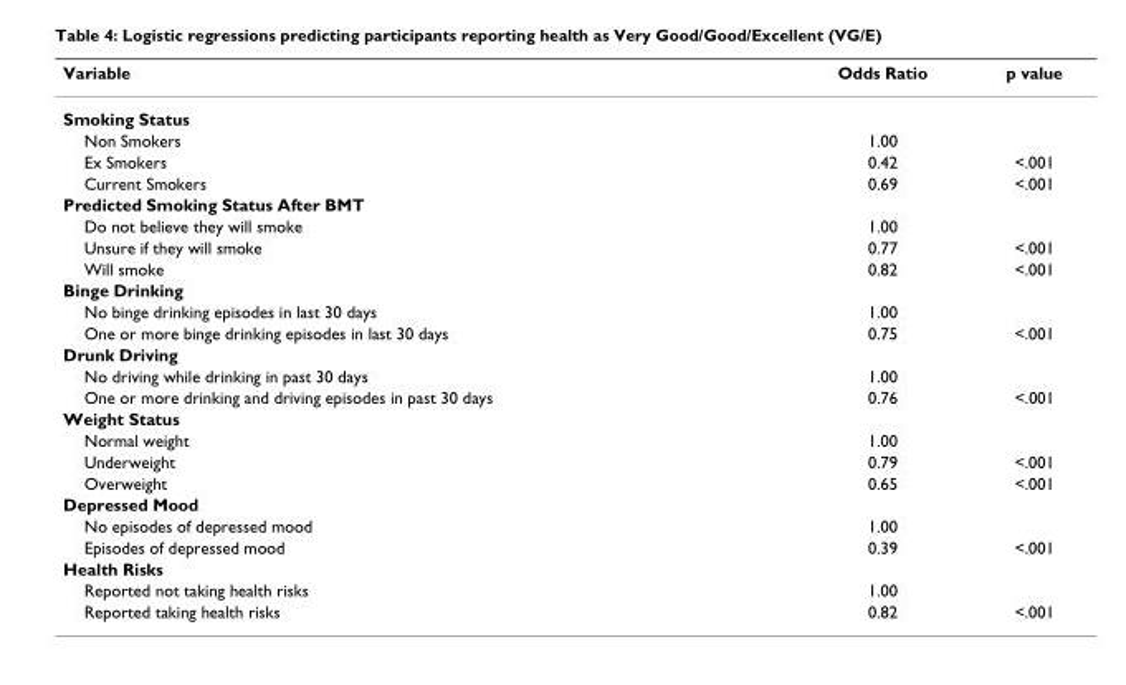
<table><thead><tr><td>Variable</td><td>Odds Ratio</td><td>p value</td></tr></thead><tbody><tr><td colspan="3">Smoking Status</td></tr><tr><td>Non Smokers</td><td>1.00</td><td></td></tr><tr><td>Ex Smokers</td><td>0.42</td><td>&lt;.001</td></tr><tr><td>Current Smokers</td><td>0.69</td><td>&lt;.001</td></tr><tr><td colspan="3">Predicted Smoking Status After BMT</td></tr><tr><td>Do not believe they will smoke</td><td>1.00</td><td></td></tr><tr><td>Unsure if they will smoke</td><td>0.77</td><td>&lt;.001</td></tr><tr><td>Will smoke</td><td>0.82</td><td>&lt;.001</td></tr><tr><td colspan="3">Binge Drinking</td></tr><tr><td>No binge drinking episodes in last 30 days</td><td>1.00</td><td></td></tr><tr><td>One or more binge drinking episodes in last 30 days</td><td>0.75</td><td>&lt;.001</td></tr><tr><td colspan="3">Drunk Driving</td></tr><tr><td>No driving while drinking in past 30 days</td><td>1.00</td><td></td></tr><tr><td>One or more drinking and driving episodes in past 30 days</td><td>0.76</td><td>&lt;.001</td></tr><tr><td colspan="3">Weight Status</td></tr><tr><td>Normal weight</td><td>1.00</td><td></td></tr><tr><td>Underweight</td><td>0.79</td><td>&lt;.001</td></tr><tr><td>Overweight</td><td>0.65</td><td>&lt;.001</td></tr><tr><td colspan="3">Depressed Mood</td></tr><tr><td>No episodes of depressed mood</td><td>1.00</td><td></td></tr><tr><td>Episodes of depressed mood</td><td>0.39</td><td>&lt;.001</td></tr><tr><td colspan="3">Health Risks</td></tr><tr><td>Reported not taking health risks</td><td>1.00</td><td></td></tr><tr><td>Reported taking health risks</td><td>0.82</td><td>&lt;.001</td></tr></tbody></table>